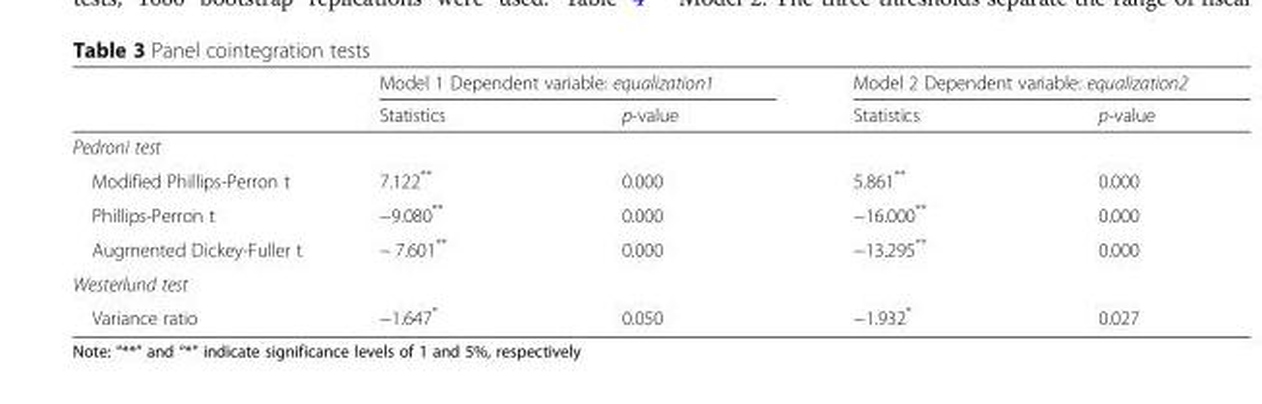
<table><thead><tr><td rowspan="2"></td><td colspan="2">Model 1 Dependent variable: equalization1</td><td colspan="2">Model 2 Dependent variable: equalization2</td></tr><tr><td>Statistics</td><td>p-value</td><td>Statistics</td><td>p-value</td></tr></thead><tbody><tr><td colspan="5">Pedroni test</td></tr><tr><td>Modified Phillips-Perron t</td><td>7.122**</td><td>0.000</td><td>5.861**</td><td>0.000</td></tr><tr><td>Phillips-Perron t</td><td>−9.080**</td><td>0.000</td><td>−16.000**</td><td>0.000</td></tr><tr><td>Augmented Dickey-Fuller t</td><td>− 7.601**</td><td>0.000</td><td>−13.295**</td><td>0.000</td></tr><tr><td colspan="5">Westerlund test</td></tr><tr><td>Variance ratio</td><td>−1.647*</td><td>0.050</td><td>−1.932*</td><td>0.027</td></tr></tbody></table>